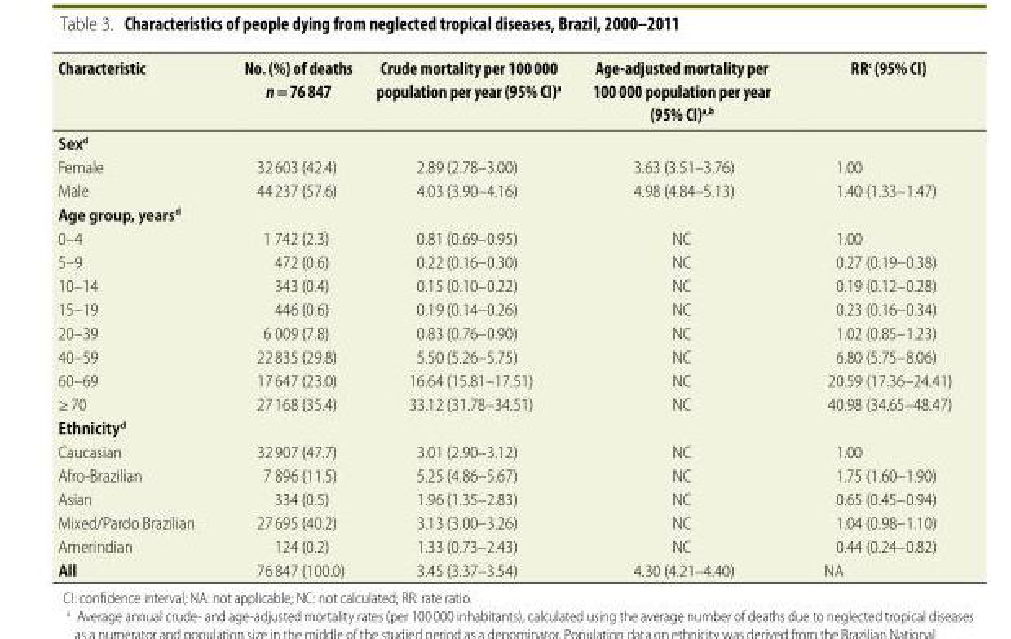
<table><thead><tr><td>Characteristic</td><td>No. (%) of deaths n = 76 847</td><td>Crude mortality per 100 000 population per year (95% CI)<sup>a</sup></td><td>Age-adjusted mortality per 100 000 population per year (95% CI)<sup>a,b</sup></td><td>RR<sup>c</sup> (95% CI)</td></tr></thead><tbody><tr><td colspan="5">Sex<sup>d</sup></td></tr><tr><td>Female</td><td>32 603 (42.4)</td><td>2.89 (2.78–3.00)</td><td>3.63 (3.51–3.76)</td><td>1.00</td></tr><tr><td>Male</td><td>44 237 (57.6)</td><td>4.03 (3.90–4.16)</td><td>4.98 (4.84–5.13)</td><td>1.40 (1.33–1.47)</td></tr><tr><td colspan="5">Age group, years<sup>d</sup></td></tr><tr><td>0–4</td><td>1 742 (2.3)</td><td>0.81 (0.69–0.95)</td><td>NC</td><td>1.00</td></tr><tr><td>5–9</td><td>472 (0.6)</td><td>0.22 (0.16–0.30)</td><td>NC</td><td>0.27 (0.19–0.38)</td></tr><tr><td>10–14</td><td>343 (0.4)</td><td>0.15 (0.10–0.22)</td><td>NC</td><td>0.19 (0.12–0.28)</td></tr><tr><td>15–19</td><td>446 (0.6)</td><td>0.19 (0.14–0.26)</td><td>NC</td><td>0.23 (0.16–0.34)</td></tr><tr><td>20–39</td><td>6 009 (7.8)</td><td>0.83 (0.76–0.90)</td><td>NC</td><td>1.02 (0.85–1.23)</td></tr><tr><td>40–59</td><td>22 835 (29.8)</td><td>5.50 (5.26–5.75)</td><td>NC</td><td>6.80 (5.75–8.06)</td></tr><tr><td>60–69</td><td>17 647 (23.0)</td><td>16.64 (15.81–17.51)</td><td>NC</td><td>20.59 (17.36–24.41)</td></tr><tr><td>≥ 70</td><td>27 168 (35.4)</td><td>33.12 (31.78–34.51)</td><td>NC</td><td>40.98 (34.65–48.47)</td></tr><tr><td colspan="5">Ethnicity<sup>d</sup></td></tr><tr><td>Caucasian</td><td>32 907 (47.7)</td><td>3.01 (2.90–3.12)</td><td>NC</td><td>1.00</td></tr><tr><td>Afro-Brazilian</td><td>7 896 (11.5)</td><td>5.25 (4.86–5.67)</td><td>NC</td><td>1.75 (1.60–1.90)</td></tr><tr><td>Asian</td><td>334 (0.5)</td><td>1.96 (1.35–2.83)</td><td>NC</td><td>0.65 (0.45–0.94)</td></tr><tr><td>Mixed/Pardo Brazilian</td><td>27 695 (40.2)</td><td>3.13 (3.00–3.26)</td><td>NC</td><td>1.04 (0.98–1.10)</td></tr><tr><td>Amerindian</td><td>124 (0.2)</td><td>1.33 (0.73–2.43)</td><td>NC</td><td>0.44 (0.24–0.82)</td></tr><tr><td>All</td><td>76 847 (100.0)</td><td>3.45 (3.37–3.54)</td><td>4.30 (4.21–4.40)</td><td>NA</td></tr></tbody></table>